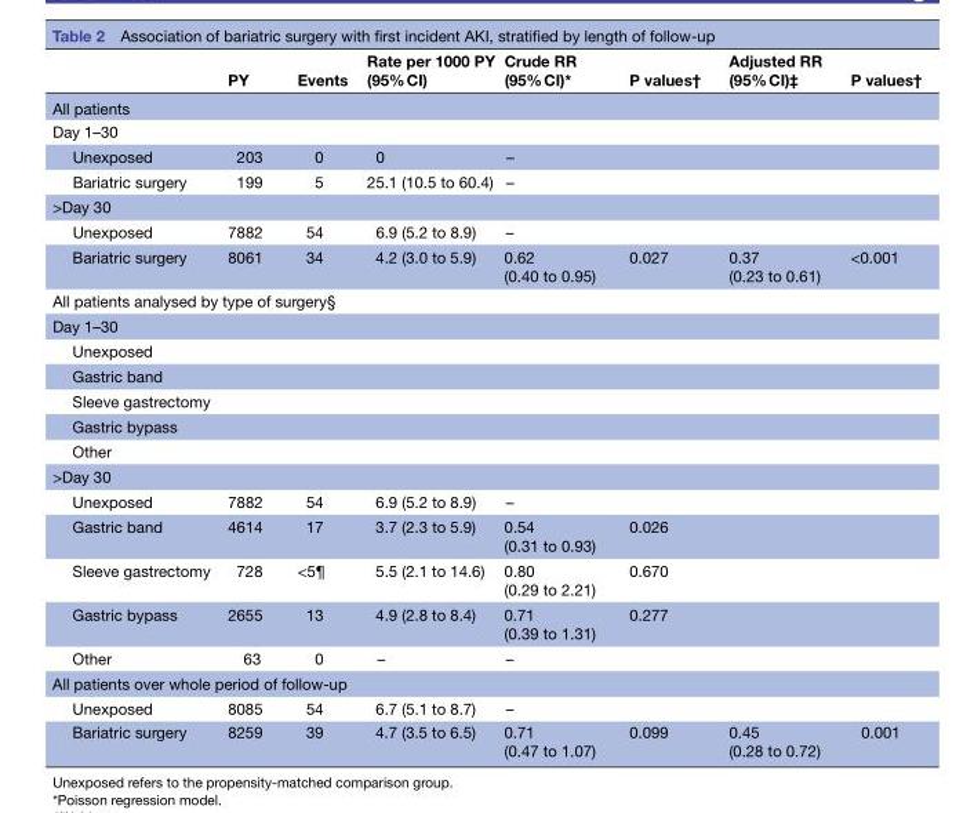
<table><thead><tr><td></td><td>PY</td><td>Events</td><td>Rate per 1000 PY (95% CI)</td><td>Crude RR (95% CI)*</td><td>P values†</td><td>Adjusted RR (95% CI)‡</td><td>P values†</td></tr></thead><tbody><tr><td colspan="8">All patients</td></tr><tr><td colspan="8">Day 1–30</td></tr><tr><td>Unexposed</td><td>203</td><td>0</td><td>0</td><td>–</td><td></td><td></td><td></td></tr><tr><td>Bariatric surgery</td><td>199</td><td>5</td><td>25.1 (10.5 to 60.4)</td><td>–</td><td></td><td></td><td></td></tr><tr><td colspan="8">&gt;Day 30</td></tr><tr><td>Unexposed</td><td>7882</td><td>54</td><td>6.9 (5.2 to 8.9)</td><td>–</td><td></td><td></td><td></td></tr><tr><td>Bariatric surgery</td><td>8061</td><td>34</td><td>4.2 (3.0 to 5.9)</td><td>0.62 (0.40 to 0.95)</td><td>0.027</td><td>0.37 (0.23 to 0.61)</td><td>&lt;0.001</td></tr><tr><td colspan="8">All patients analysed by type of surgery§</td></tr><tr><td colspan="8">Day 1–30</td></tr><tr><td colspan="8">Unexposed</td></tr><tr><td colspan="8">Gastric band</td></tr><tr><td colspan="8">Sleeve gastrectomy</td></tr><tr><td colspan="8">Gastric bypass</td></tr><tr><td colspan="8">Other</td></tr><tr><td colspan="8">&gt;Day 30</td></tr><tr><td>Unexposed</td><td>7882</td><td>54</td><td>6.9 (5.2 to 8.9)</td><td>–</td><td></td><td></td><td></td></tr><tr><td>Gastric band</td><td>4614</td><td>17</td><td>3.7 (2.3 to 5.9)</td><td>0.54 (0.31 to 0.93)</td><td>0.026</td><td></td><td></td></tr><tr><td>Sleeve gastrectomy</td><td>728</td><td>&lt;5¶</td><td>5.5 (2.1 to 14.6)</td><td>0.80 (0.29 to 2.21)</td><td>0.670</td><td></td><td></td></tr><tr><td>Gastric bypass</td><td>2655</td><td>13</td><td>4.9 (2.8 to 8.4)</td><td>0.71 (0.39 to 1.31)</td><td>0.277</td><td></td><td></td></tr><tr><td>Other</td><td>63</td><td>0</td><td>–</td><td>–</td><td></td><td></td><td></td></tr><tr><td colspan="8">All patients over whole period of follow-up</td></tr><tr><td>Unexposed</td><td>8085</td><td>54</td><td>6.7 (5.1 to 8.7)</td><td>–</td><td></td><td></td><td></td></tr><tr><td>Bariatric surgery</td><td>8259</td><td>39</td><td>4.7 (3.5 to 6.5)</td><td>0.71 (0.47 to 1.07)</td><td>0.099</td><td>0.45 (0.28 to 0.72)</td><td>0.001</td></tr></tbody></table>